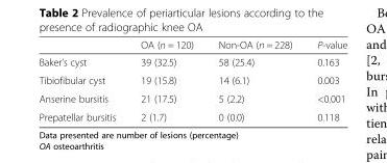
<table><thead><tr><td></td><td>OA (n = 120)</td><td>Non-OA (n = 228)</td><td>P-value</td></tr></thead><tbody><tr><td>Baker’s cyst</td><td>39 (32.5)</td><td>58 (25.4)</td><td>0.163</td></tr><tr><td>Tibiofibular cyst</td><td>19 (15.8)</td><td>14 (6.1)</td><td>0.003</td></tr><tr><td>Anserine bursitis</td><td>21 (17.5)</td><td>5 (2.2)</td><td>&lt;0.001</td></tr><tr><td>Prepatellar bursitis</td><td>2 (1.7)</td><td>0 (0.0)</td><td>0.118</td></tr></tbody></table>